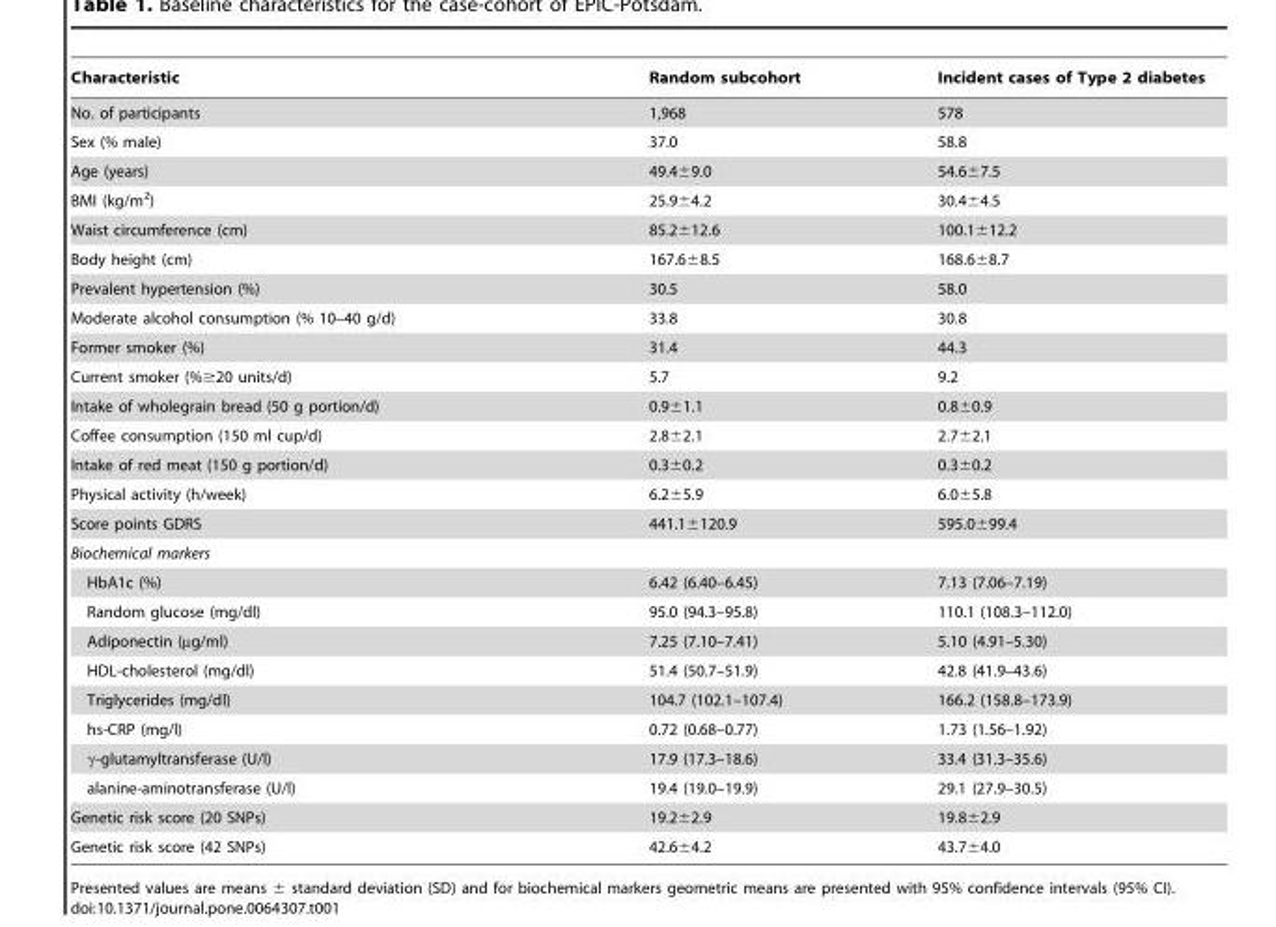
<table><thead><tr><td>Characteristic</td><td>Random subcohort</td><td>Incident cases of Type 2 diabetes</td></tr></thead><tbody><tr><td>No. of participants</td><td>1,968</td><td>578</td></tr><tr><td>Sex (% male)</td><td>37.0</td><td>58.8</td></tr><tr><td>Age (years)</td><td>49.4±9.0</td><td>54.6±7.5</td></tr><tr><td>BMI (kg/m<sup>2</sup>)</td><td>25.9±4.2</td><td>30.4±4.5</td></tr><tr><td>Waist circumference (cm)</td><td>85.2±12.6</td><td>100.1±12.2</td></tr><tr><td>Body height (cm)</td><td>167.6±8.5</td><td>168.6±8.7</td></tr><tr><td>Prevalent hypertension (%)</td><td>30.5</td><td>58.0</td></tr><tr><td>Moderate alcohol consumption (% 10–40 g/d)</td><td>33.8</td><td>30.8</td></tr><tr><td>Former smoker (%)</td><td>31.4</td><td>44.3</td></tr><tr><td>Current smoker (%≥20 units/d)</td><td>5.7</td><td>9.2</td></tr><tr><td>Intake of wholegrain bread (50 g portion/d)</td><td>0.9±1.1</td><td>0.8±0.9</td></tr><tr><td>Coffee consumption (150 ml cup/d)</td><td>2.8±2.1</td><td>2.7±2.1</td></tr><tr><td>Intake of red meat (150 g portion/d)</td><td>0.3±0.2</td><td>0.3±0.2</td></tr><tr><td>Physical activity (h/week)</td><td>6.2±5.9</td><td>6.0±5.8</td></tr><tr><td>Score points GDRS</td><td>441.1±120.9</td><td>595.0±99.4</td></tr><tr><td colspan="3">Biochemical markers</td></tr><tr><td>HbA1c (%)</td><td>6.42 (6.40–6.45)</td><td>7.13 (7.06–7.19)</td></tr><tr><td>Random glucose (mg/dl)</td><td>95.0 (94.3–95.8)</td><td>110.1 (108.3–112.0)</td></tr><tr><td>Adiponectin (µg/ml)</td><td>7.25 (7.10–7.41)</td><td>5.10 (4.91–5.30)</td></tr><tr><td>HDL-cholesterol (mg/dl)</td><td>51.4 (50.7–51.9)</td><td>42.8 (41.9–43.6)</td></tr><tr><td>Triglycerides (mg/dl)</td><td>104.7 (102.1–107.4)</td><td>166.2 (158.8–173.9)</td></tr><tr><td>hs-CRP (mg/l)</td><td>0.72 (0.68–0.77)</td><td>1.73 (1.56–1.92)</td></tr><tr><td>γ-glutamyltransferase (U/l)</td><td>17.9 (17.3–18.6)</td><td>33.4 (31.3–35.6)</td></tr><tr><td>alanine-aminotransferase (U/l)</td><td>19.4 (19.0–19.9)</td><td>29.1 (27.9–30.5)</td></tr><tr><td>Genetic risk score (20 SNPs)</td><td>19.2±2.9</td><td>19.8±2.9</td></tr><tr><td>Genetic risk score (42 SNPs)</td><td>42.6±4.2</td><td>43.7±4.0</td></tr></tbody></table>